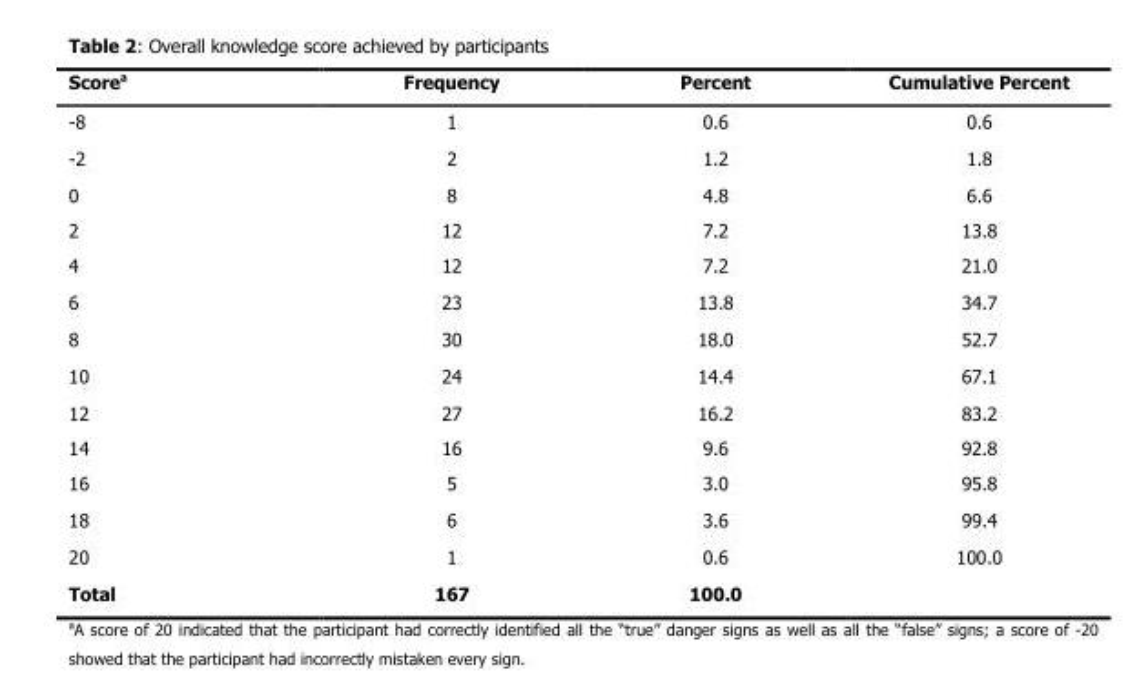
<table><thead><tr><td>Score<sup>a</sup></td><td>Frequency</td><td>Percent</td><td>Cumulative Percent</td></tr></thead><tbody><tr><td>-8</td><td>1</td><td>0.6</td><td>0.6</td></tr><tr><td>-2</td><td>2</td><td>1.2</td><td>1.8</td></tr><tr><td>0</td><td>8</td><td>4.8</td><td>6.6</td></tr><tr><td>2</td><td>12</td><td>7.2</td><td>13.8</td></tr><tr><td>4</td><td>12</td><td>7.2</td><td>21.0</td></tr><tr><td>6</td><td>23</td><td>13.8</td><td>34.7</td></tr><tr><td>8</td><td>30</td><td>18.0</td><td>52.7</td></tr><tr><td>10</td><td>24</td><td>14.4</td><td>67.1</td></tr><tr><td>12</td><td>27</td><td>16.2</td><td>83.2</td></tr><tr><td>14</td><td>16</td><td>9.6</td><td>92.8</td></tr><tr><td>16</td><td>5</td><td>3.0</td><td>95.8</td></tr><tr><td>18</td><td>6</td><td>3.6</td><td>99.4</td></tr><tr><td>20</td><td>1</td><td>0.6</td><td>100.0</td></tr><tr><td>Total</td><td>167</td><td>100.0</td><td></td></tr></tbody></table>